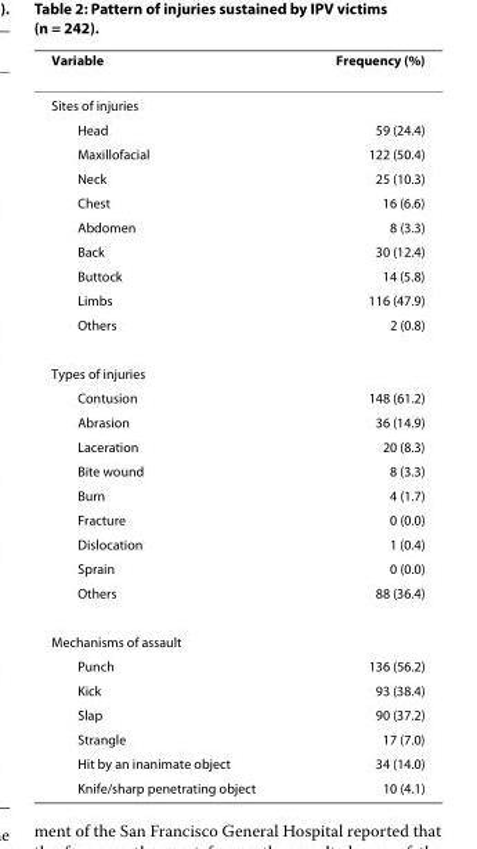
<table><thead><tr><td>Variable</td><td>Frequency (%)</td></tr></thead><tbody><tr><td colspan="2">Sites of injuries</td></tr><tr><td>Head</td><td>59 (24.4)</td></tr><tr><td>Maxillofacial</td><td>122 (50.4)</td></tr><tr><td>Neck</td><td>25 (10.3)</td></tr><tr><td>Chest</td><td>16 (6.6)</td></tr><tr><td>Abdomen</td><td>8 (3.3)</td></tr><tr><td>Back</td><td>30 (12.4)</td></tr><tr><td>Buttock</td><td>14 (5.8)</td></tr><tr><td>Limbs</td><td>116 (47.9)</td></tr><tr><td>Others</td><td>2 (0.8)</td></tr><tr><td colspan="2">Types of injuries</td></tr><tr><td>Contusion</td><td>148 (61.2)</td></tr><tr><td>Abrasion</td><td>36 (14.9)</td></tr><tr><td>Laceration</td><td>20 (8.3)</td></tr><tr><td>Bite wound</td><td>8 (3.3)</td></tr><tr><td>Burn</td><td>4 (1.7)</td></tr><tr><td>Fracture</td><td>0 (0.0)</td></tr><tr><td>Dislocation</td><td>1 (0.4)</td></tr><tr><td>Sprain</td><td>0 (0.0)</td></tr><tr><td>Others</td><td>88 (36.4)</td></tr><tr><td colspan="2">Mechanisms of assault</td></tr><tr><td>Punch</td><td>136 (56.2)</td></tr><tr><td>Kick</td><td>93 (38.4)</td></tr><tr><td>Slap</td><td>90 (37.2)</td></tr><tr><td>Strangle</td><td>17 (7.0)</td></tr><tr><td>Hit by an inanimate object</td><td>34 (14.0)</td></tr><tr><td>Knife/sharp penetrating object</td><td>10 (4.1)</td></tr></tbody></table>